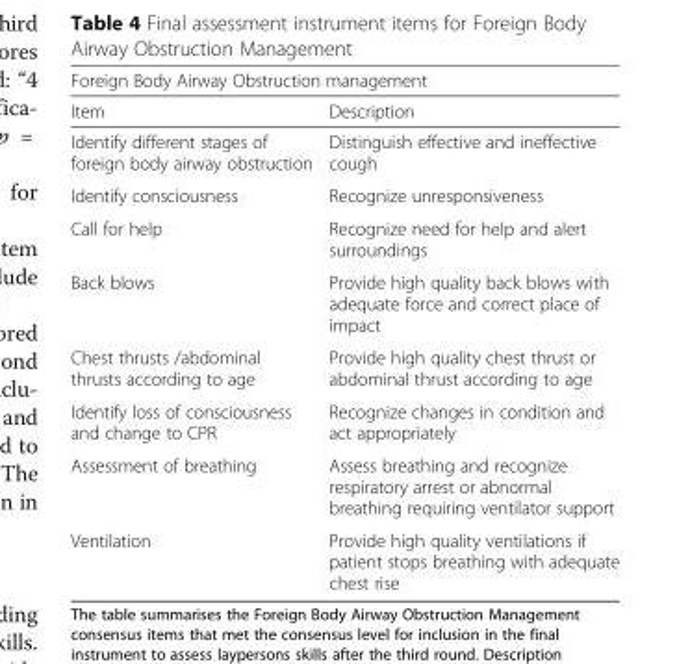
<table><thead><tr><td colspan="2">Foreign Body Airway Obstruction management</td></tr><tr><td>Item</td><td>Description</td></tr></thead><tbody><tr><td>Identify different stages of foreign body airway obstruction</td><td>Distinguish effective and ineffective cough</td></tr><tr><td>Identify consciousness</td><td>Recognize unresponsiveness</td></tr><tr><td>Call for help</td><td>Recognize need for help and alert surroundings</td></tr><tr><td>Back blows</td><td>Provide high quality back blows with adequate force and correct place of impact</td></tr><tr><td>Chest thrusts /abdominal thrusts according to age</td><td>Provide high quality chest thrust or abdominal thrust according to age</td></tr><tr><td>Identify loss of consciousness and change to CPR</td><td>Recognize changes in condition and act appropriately</td></tr><tr><td>Assessment of breathing</td><td>Assess breathing and recognize respiratory arrest or abnormal breathing requiring ventilator support</td></tr><tr><td>Ventilation</td><td>Provide high quality ventilations if patient stops breathing with adequate chest rise</td></tr></tbody></table>